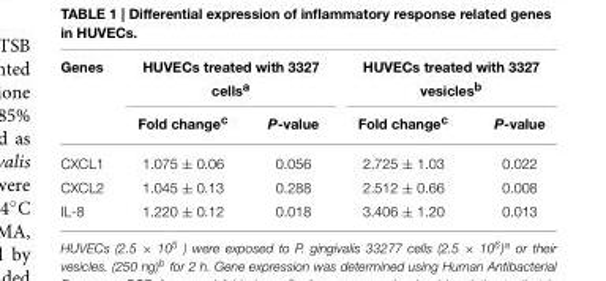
<table><thead><tr><td rowspan="2">Genes</td><td colspan="2">HUVECs treated with 3327 cells<sup>a</sup></td><td colspan="2">HUVECs treated with 3327 vesicles<sup>b</sup></td></tr><tr><td>Fold change<sup>c</sup></td><td>P-value</td><td>Fold change<sup>c</sup></td><td>P-value</td></tr></thead><tbody><tr><td>CXCL1</td><td>1.075 ± 0.06</td><td>0.056</td><td>2.725 ± 1.03</td><td>0.022</td></tr><tr><td>CXCL2</td><td>1.045 ± 0.13</td><td>0.288</td><td>2.512 ± 0.66</td><td>0.008</td></tr><tr><td>IL-8</td><td>1.220 ± 0.12</td><td>0.018</td><td>3.406 ± 1.20</td><td>0.013</td></tr></tbody></table>